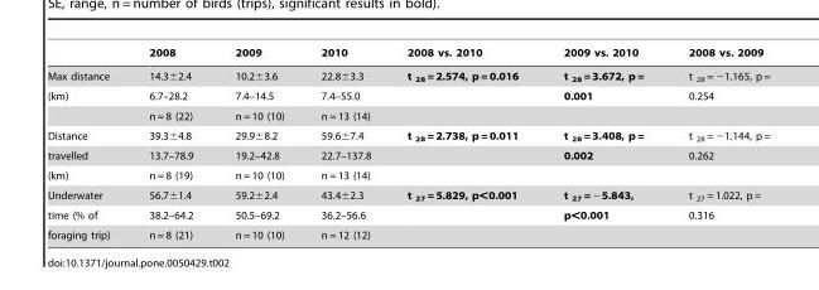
<table><thead><tr><td></td><td>2008</td><td>2009</td><td>2010</td><td>2008 vs. 2010</td><td>2009 vs. 2010</td><td>2008 vs. 2009</td></tr></thead><tbody><tr><td>Max distance</td><td>14.3±2.4</td><td>10.2±3.6</td><td>22.8±3.3</td><td>t <sub>28</sub> = 2.574, p = 0.016</td><td>t <sub>28</sub> = 3.672, p =</td><td>t <sub>28</sub> = −1.165, p =</td></tr><tr><td rowspan="2">(km)</td><td>6.7–28.2</td><td>7.4–14.5</td><td>7.4–55.0</td><td></td><td>0.001</td><td>0.254</td></tr><tr><td>n = 8 (22)</td><td>n = 10 (10)</td><td>n = 13 (14)</td><td></td><td></td><td></td></tr><tr><td>Distance</td><td>39.3±4.8</td><td>29.9±8.2</td><td>59.6±7.4</td><td>t <sub>28</sub> = 2.738, p = 0.011</td><td>t <sub>28</sub> = 3.408, p =</td><td>t <sub>28</sub> = −1.144, p =</td></tr><tr><td>travelled</td><td>13.7–78.9</td><td>19.2–42.8</td><td>22.7–137.8</td><td></td><td>0.002</td><td>0.262</td></tr><tr><td>(km)</td><td>n = 8 (19)</td><td>n = 10 (10)</td><td>n = 13 (14)</td><td></td><td></td><td></td></tr><tr><td>Underwater</td><td>56.7±1.4</td><td>59.2±2.4</td><td>43.4±2.3</td><td>t <sub>27</sub> = 5.829, p&lt;0.001</td><td>t <sub>27</sub> = −5.843,</td><td>t <sub>27</sub> = 1.022, p =</td></tr><tr><td>time (% of</td><td>38.2–64.2</td><td>50.5–69.2</td><td>36.2–56.6</td><td></td><td>p&lt;0.001</td><td>0.316</td></tr><tr><td>foraging trip)</td><td>n = 8 (21)</td><td>n = 10 (10)</td><td>n = 12 (12)</td><td></td><td></td><td></td></tr></tbody></table>